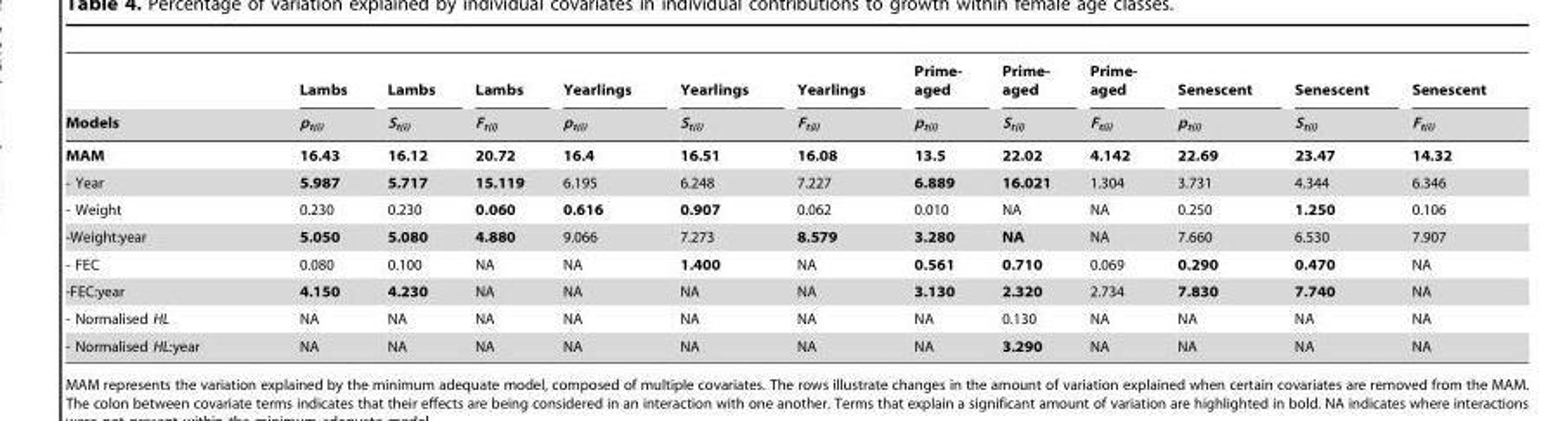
<table><thead><tr><td rowspan="2">Models</td><td rowspan="2">Lambs p<sub>t(i)</sub></td><td rowspan="2">Lambs S<sub>t(i)</sub></td><td rowspan="2">Lambs F<sub>t(i)</sub></td><td rowspan="2">Yearlings p<sub>t(i)</sub></td><td rowspan="2">Yearlings S<sub>t(i)</sub></td><td rowspan="2">Yearlings F<sub>t(i)</sub></td><td rowspan="2">Prime- aged p<sub>t(i)</sub></td><td rowspan="2">Prime- aged S<sub>t(i)</sub></td><td rowspan="2">Prime- aged F<sub>t(i)</sub></td><td rowspan="2">Senescent p<sub>t(i)</sub></td><td rowspan="2">Senescent S<sub>t(i)</sub></td><td rowspan="2">Senescent F<sub>t(i)</sub></td></tr><tr></tr></thead><tbody><tr><td>MAM</td><td>16.43</td><td>16.12</td><td>20.72</td><td>16.4</td><td>16.51</td><td>16.08</td><td>13.5</td><td>22.02</td><td>4.142</td><td>22.69</td><td>23.47</td><td>14.32</td></tr><tr><td>- Year</td><td>5.987</td><td>5.717</td><td>15.119</td><td>6.195</td><td>6.248</td><td>7.227</td><td>6.889</td><td>16.021</td><td>1.304</td><td>3.731</td><td>4.344</td><td>6.346</td></tr><tr><td>- Weight</td><td>0.230</td><td>0.230</td><td>0.060</td><td>0.616</td><td>0.907</td><td>0.062</td><td>0.010</td><td>NA</td><td>NA</td><td>0.250</td><td>1.250</td><td>0.106</td></tr><tr><td>-Weight:year</td><td>5.050</td><td>5.080</td><td>4.880</td><td>9.066</td><td>7.273</td><td>8.579</td><td>3.280</td><td>NA</td><td>NA</td><td>7.660</td><td>6.530</td><td>7.907</td></tr><tr><td>- FEC</td><td>0.080</td><td>0.100</td><td>NA</td><td>NA</td><td>1.400</td><td>NA</td><td>0.561</td><td>0.710</td><td>0.069</td><td>0.290</td><td>0.470</td><td>NA</td></tr><tr><td>-FEC:year</td><td>4.150</td><td>4.230</td><td>NA</td><td>NA</td><td>NA</td><td>NA</td><td>3.130</td><td>2.320</td><td>2.734</td><td>7.830</td><td>7.740</td><td>NA</td></tr><tr><td>- Normalised HL</td><td>NA</td><td>NA</td><td>NA</td><td>NA</td><td>NA</td><td>NA</td><td>NA</td><td>0.130</td><td>NA</td><td>NA</td><td>NA</td><td>NA</td></tr><tr><td>- Normalised HL:year</td><td>NA</td><td>NA</td><td>NA</td><td>NA</td><td>NA</td><td>NA</td><td>NA</td><td>3.290</td><td>NA</td><td>NA</td><td>NA</td><td>NA</td></tr></tbody></table>